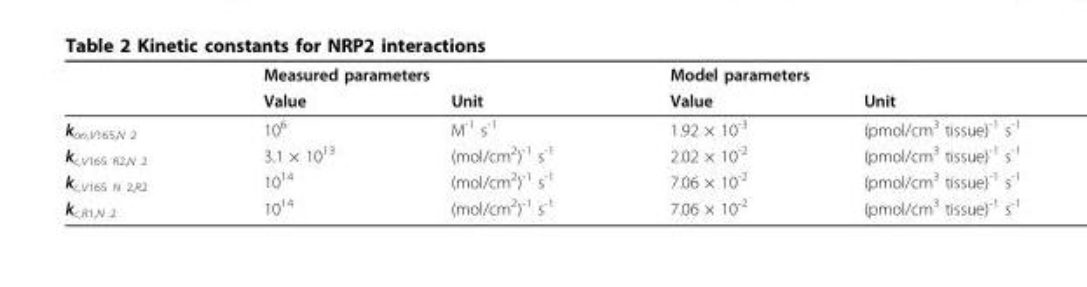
<table><thead><tr><td rowspan="2"></td><td colspan="2">Measured parameters</td><td colspan="2">Model parameters</td></tr><tr><td>Value</td><td>Unit</td><td>Value</td><td>Unit</td></tr></thead><tbody><tr><td>k<sub>on,V165,N 2</sub></td><td>10<sup>6</sup></td><td>M<sup>-1</sup> s<sup>-1</sup></td><td>1.92 × 10<sup>-3</sup></td><td>(pmol/cm<sup>3</sup> tissue)<sup>-1</sup> s<sup>-1</sup></td></tr><tr><td>k<sub>c,V165 R2,N 2</sub></td><td>3.1 × 10<sup>13</sup></td><td>(mol/cm<sup>2</sup>)<sup>-1</sup> s<sup>-1</sup></td><td>2.02 × 10<sup>-2</sup></td><td>(pmol/cm<sup>3</sup> tissue)<sup>-1</sup> s<sup>-1</sup></td></tr><tr><td>k<sub>c,V165 N 2,R2</sub></td><td>10<sup>14</sup></td><td>(mol/cm<sup>2</sup>)<sup>-1</sup> s<sup>-1</sup></td><td>7.06 × 10<sup>-2</sup></td><td>(pmol/cm<sup>3</sup> tissue)<sup>-1</sup> s<sup>-1</sup></td></tr><tr><td>k<sub>c,R1,N 2</sub></td><td>10<sup>14</sup></td><td>(mol/cm<sup>2</sup>)<sup>-1</sup> s<sup>-1</sup></td><td>7.06 × 10<sup>-2</sup></td><td>(pmol/cm<sup>3</sup> tissue)<sup>-1</sup> s<sup>-1</sup></td></tr></tbody></table>